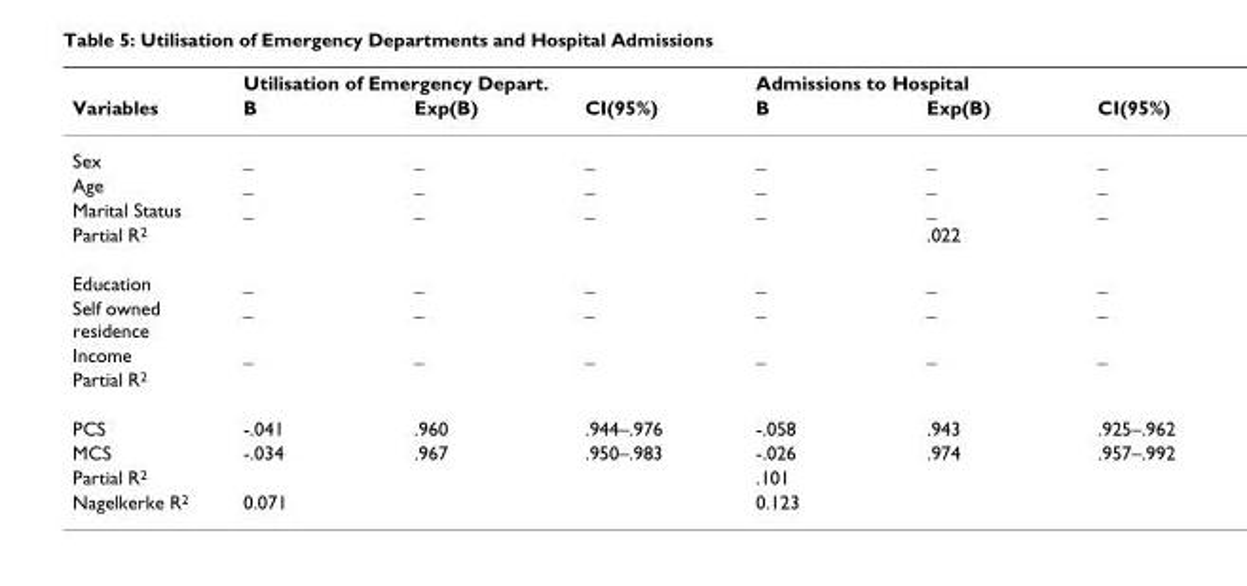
<table><thead><tr><td rowspan="2">Variables</td><td colspan="3">Utilisation of Emergency Depart.</td><td colspan="3">Admissions to Hospital</td></tr><tr><td>B</td><td>Exp(B)</td><td>CI(95%)</td><td>B</td><td>Exp(B)</td><td>CI(95%)</td></tr></thead><tbody><tr><td>Sex</td><td>_</td><td>_</td><td>_</td><td>_</td><td>_</td><td>_</td></tr><tr><td>Age</td><td>_</td><td>_</td><td>_</td><td>_</td><td>_</td><td>_</td></tr><tr><td>Marital Status</td><td>_</td><td>_</td><td>_</td><td>_</td><td>_</td><td>_</td></tr><tr><td>Partial R2</td><td></td><td></td><td></td><td></td><td>.022</td><td></td></tr><tr><td>Education</td><td>_</td><td>_</td><td>_</td><td>_</td><td>_</td><td>_</td></tr><tr><td>Self owned residence</td><td>_</td><td>_</td><td>_</td><td>_</td><td>_</td><td>_</td></tr><tr><td>Income</td><td>_</td><td>_</td><td>_</td><td>_</td><td>_</td><td>_</td></tr><tr><td colspan="7">Partial R2</td></tr><tr><td>PCS</td><td>-.041</td><td>.960</td><td>.944–.976</td><td>-.058</td><td>.943</td><td>.925–.962</td></tr><tr><td>MCS</td><td>-.034</td><td>.967</td><td>.950–.983</td><td>-.026</td><td>.974</td><td>.957–.992</td></tr><tr><td>Partial R2</td><td></td><td></td><td></td><td>.101</td><td></td><td></td></tr><tr><td>Nagelkerke R2</td><td>0.071</td><td></td><td></td><td>0.123</td><td></td><td></td></tr></tbody></table>